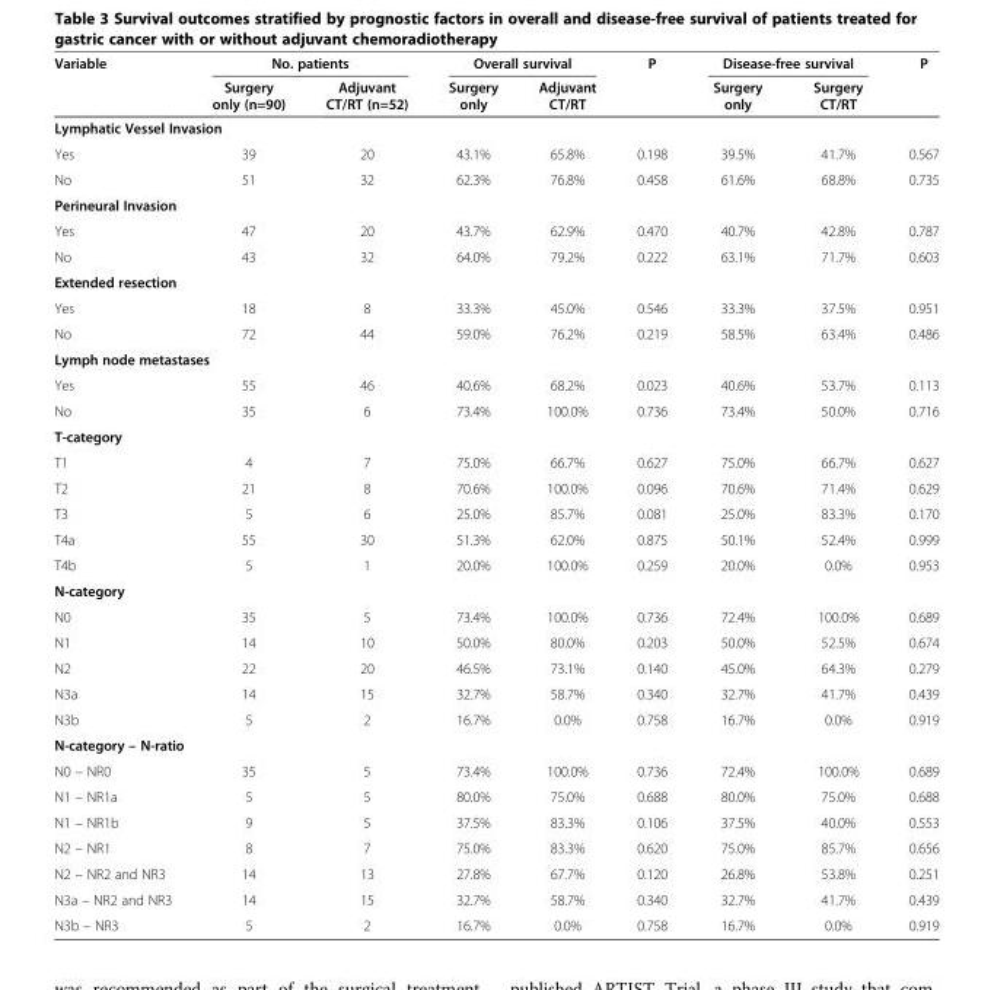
<table><thead><tr><td rowspan="2">Variable</td><td colspan="2">No. patients</td><td colspan="2">Overall survival</td><td rowspan="2">P</td><td colspan="2">Disease-free survival</td><td rowspan="2">P</td></tr><tr><td>Surgery only (n=90)</td><td>Adjuvant CT/RT (n=52)</td><td>Surgery only</td><td>Adjuvant CT/RT</td><td>Surgery only</td><td>Surgery CT/RT</td></tr></thead><tbody><tr><td colspan="9">Lymphatic Vessel Invasion</td></tr><tr><td>Yes</td><td>39</td><td>20</td><td>43.1%</td><td>65.8%</td><td>0.198</td><td>39.5%</td><td>41.7%</td><td>0.567</td></tr><tr><td>No</td><td>51</td><td>32</td><td>62.3%</td><td>76.8%</td><td>0.458</td><td>61.6%</td><td>68.8%</td><td>0.735</td></tr><tr><td colspan="9">Perineural Invasion</td></tr><tr><td>Yes</td><td>47</td><td>20</td><td>43.7%</td><td>62.9%</td><td>0.470</td><td>40.7%</td><td>42.8%</td><td>0.787</td></tr><tr><td>No</td><td>43</td><td>32</td><td>64.0%</td><td>79.2%</td><td>0.222</td><td>63.1%</td><td>71.7%</td><td>0.603</td></tr><tr><td colspan="9">Extended resection</td></tr><tr><td>Yes</td><td>18</td><td>8</td><td>33.3%</td><td>45.0%</td><td>0.546</td><td>33.3%</td><td>37.5%</td><td>0.951</td></tr><tr><td>No</td><td>72</td><td>44</td><td>59.0%</td><td>76.2%</td><td>0.219</td><td>58.5%</td><td>63.4%</td><td>0.486</td></tr><tr><td colspan="9">Lymph node metastases</td></tr><tr><td>Yes</td><td>55</td><td>46</td><td>40.6%</td><td>68.2%</td><td>0.023</td><td>40.6%</td><td>53.7%</td><td>0.113</td></tr><tr><td>No</td><td>35</td><td>6</td><td>73.4%</td><td>100.0%</td><td>0.736</td><td>73.4%</td><td>50.0%</td><td>0.716</td></tr><tr><td colspan="9">T-category</td></tr><tr><td>T1</td><td>4</td><td>7</td><td>75.0%</td><td>66.7%</td><td>0.627</td><td>75.0%</td><td>66.7%</td><td>0.627</td></tr><tr><td>T2</td><td>21</td><td>8</td><td>70.6%</td><td>100.0%</td><td>0.096</td><td>70.6%</td><td>71.4%</td><td>0.629</td></tr><tr><td>T3</td><td>5</td><td>6</td><td>25.0%</td><td>85.7%</td><td>0.081</td><td>25.0%</td><td>83.3%</td><td>0.170</td></tr><tr><td>T4a</td><td>55</td><td>30</td><td>51.3%</td><td>62.0%</td><td>0.875</td><td>50.1%</td><td>52.4%</td><td>0.999</td></tr><tr><td>T4b</td><td>5</td><td>1</td><td>20.0%</td><td>100.0%</td><td>0.259</td><td>20.0%</td><td>0.0%</td><td>0.953</td></tr><tr><td colspan="9">N-category</td></tr><tr><td>N0</td><td>35</td><td>5</td><td>73.4%</td><td>100.0%</td><td>0.736</td><td>72.4%</td><td>100.0%</td><td>0.689</td></tr><tr><td>N1</td><td>14</td><td>10</td><td>50.0%</td><td>80.0%</td><td>0.203</td><td>50.0%</td><td>52.5%</td><td>0.674</td></tr><tr><td>N2</td><td>22</td><td>20</td><td>46.5%</td><td>73.1%</td><td>0.140</td><td>45.0%</td><td>64.3%</td><td>0.279</td></tr><tr><td>N3a</td><td>14</td><td>15</td><td>32.7%</td><td>58.7%</td><td>0.340</td><td>32.7%</td><td>41.7%</td><td>0.439</td></tr><tr><td>N3b</td><td>5</td><td>2</td><td>16.7%</td><td>0.0%</td><td>0.758</td><td>16.7%</td><td>0.0%</td><td>0.919</td></tr><tr><td colspan="9">N-category – N-ratio</td></tr><tr><td>N0 – NR0</td><td>35</td><td>5</td><td>73.4%</td><td>100.0%</td><td>0.736</td><td>72.4%</td><td>100.0%</td><td>0.689</td></tr><tr><td>N1 – NR1a</td><td>5</td><td>5</td><td>80.0%</td><td>75.0%</td><td>0.688</td><td>80.0%</td><td>75.0%</td><td>0.688</td></tr><tr><td>N1 – NR1b</td><td>9</td><td>5</td><td>37.5%</td><td>83.3%</td><td>0.106</td><td>37.5%</td><td>40.0%</td><td>0.553</td></tr><tr><td>N2 – NR1</td><td>8</td><td>7</td><td>75.0%</td><td>83.3%</td><td>0.620</td><td>75.0%</td><td>85.7%</td><td>0.656</td></tr><tr><td>N2 – NR2 and NR3</td><td>14</td><td>13</td><td>27.8%</td><td>67.7%</td><td>0.120</td><td>26.8%</td><td>53.8%</td><td>0.251</td></tr><tr><td>N3a – NR2 and NR3</td><td>14</td><td>15</td><td>32.7%</td><td>58.7%</td><td>0.340</td><td>32.7%</td><td>41.7%</td><td>0.439</td></tr><tr><td>N3b – NR3</td><td>5</td><td>2</td><td>16.7%</td><td>0.0%</td><td>0.758</td><td>16.7%</td><td>0.0%</td><td>0.919</td></tr></tbody></table>